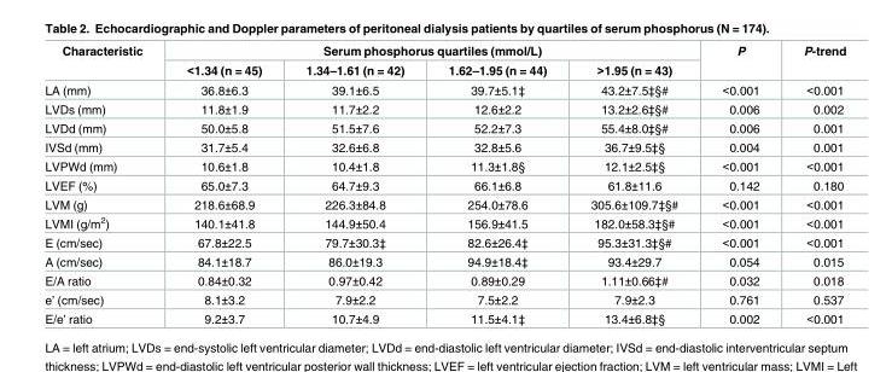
<table><thead><tr><td rowspan="2">Characteristic</td><td colspan="4">Serum phosphorus quartiles (mmol/L)</td><td rowspan="2">P</td><td rowspan="2">P-trend</td></tr><tr><td>&lt;1.34 (n = 45)</td><td>1.34–1.61 (n = 42)</td><td>1.62–1.95 (n = 44)</td><td>&gt;1.95 (n = 43)</td></tr></thead><tbody><tr><td>LA (mm)</td><td>36.8±6.3</td><td>39.1±6.5</td><td>39.7±5.1‡</td><td>43.2±7.5‡§#</td><td>&lt;0.001</td><td>&lt;0.001</td></tr><tr><td>LVDs (mm)</td><td>11.8±1.9</td><td>11.7±2.2</td><td>12.6±2.2</td><td>13.2±2.6‡§#</td><td>0.006</td><td>0.002</td></tr><tr><td>LVDd (mm)</td><td>50.0±5.8</td><td>51.5±7.6</td><td>52.2±7.3</td><td>55.4±8.0‡§#</td><td>0.006</td><td>0.001</td></tr><tr><td>IVSd (mm)</td><td>31.7±5.4</td><td>32.6±6.8</td><td>32.8±5.6</td><td>36.7±9.5‡§</td><td>0.004</td><td>0.001</td></tr><tr><td>LVPWd (mm)</td><td>10.6±1.8</td><td>10.4±1.8</td><td>11.3±1.8§</td><td>12.1±2.5‡§</td><td>&lt;0.001</td><td>&lt;0.001</td></tr><tr><td>LVEF (%)</td><td>65.0±7.3</td><td>64.7±9.3</td><td>66.1±6.8</td><td>61.8±11.6</td><td>0.142</td><td>0.180</td></tr><tr><td>LVM (g)</td><td>218.6±68.9</td><td>226.3±84.8</td><td>254.0±78.6</td><td>305.6±109.7‡§#</td><td>&lt;0.001</td><td>&lt;0.001</td></tr><tr><td>LVMI (g/m<sup>2</sup>)</td><td>140.1±41.8</td><td>144.9±50.4</td><td>156.9±41.5</td><td>182.0±58.3‡§#</td><td>&lt;0.001</td><td>&lt;0.001</td></tr><tr><td>E (cm/sec)</td><td>67.8±22.5</td><td>79.7±30.3‡</td><td>82.6±26.4‡</td><td>95.3±31.3‡§#</td><td>&lt;0.001</td><td>&lt;0.001</td></tr><tr><td>A (cm/sec)</td><td>84.1±18.7</td><td>86.0±19.3</td><td>94.9±18.4‡</td><td>93.4±29.7</td><td>0.054</td><td>0.015</td></tr><tr><td>E/A ratio</td><td>0.84±0.32</td><td>0.97±0.42</td><td>0.89±0.29</td><td>1.11±0.66‡#</td><td>0.032</td><td>0.018</td></tr><tr><td>e’ (cm/sec)</td><td>8.1±3.2</td><td>7.9±2.2</td><td>7.5±2.2</td><td>7.9±2.3</td><td>0.761</td><td>0.537</td></tr><tr><td>E/e’ ratio</td><td>9.2±3.7</td><td>10.7±4.9</td><td>11.5±4.1‡</td><td>13.4±6.8‡§</td><td>0.002</td><td>&lt;0.001</td></tr></tbody></table>